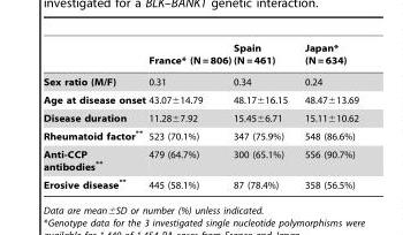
<table><thead><tr><td></td><td>France* (N = 806)</td><td>Spain (N = 461)</td><td>Japan* (N = 634)</td></tr></thead><tbody><tr><td>Sex ratio (M/F)</td><td>0.31</td><td>0.34</td><td>0.24</td></tr><tr><td>Age at disease onset</td><td>43.07±14.79</td><td>48.17±16.15</td><td>48.47±13.69</td></tr><tr><td>Disease duration</td><td>11.28±7.92</td><td>15.45±6.71</td><td>15.11±10.62</td></tr><tr><td>Rheumatoid factor**</td><td>523 (70.1%)</td><td>347 (75.9%)</td><td>548 (86.6%)</td></tr><tr><td>Anti-CCP antibodies**</td><td>479 (64.7%)</td><td>300 (65.1%)</td><td>556 (90.7%)</td></tr><tr><td>Erosive disease**</td><td>445 (58.1%)</td><td>87 (78.4%)</td><td>358 (56.5%)</td></tr></tbody></table>